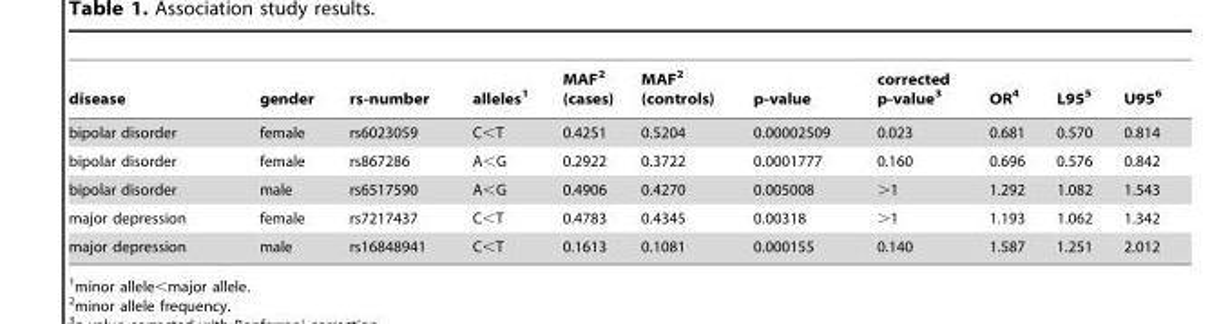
<table><thead><tr><td>disease</td><td>gender</td><td>rs-number</td><td>alleles<sup>1</sup></td><td>MAF<sup>2</sup> (cases)</td><td>MAF<sup>2</sup> (controls)</td><td>p-value</td><td>corrected p-value<sup>3</sup></td><td>OR<sup>4</sup></td><td>L95<sup>5</sup></td><td>U95<sup>6</sup></td></tr></thead><tbody><tr><td>bipolar disorder</td><td>female</td><td>rs6023059</td><td>C&lt;T</td><td>0.4251</td><td>0.5204</td><td>0.00002509</td><td>0.023</td><td>0.681</td><td>0.570</td><td>0.814</td></tr><tr><td>bipolar disorder</td><td>female</td><td>rs867286</td><td>A&lt;G</td><td>0.2922</td><td>0.3722</td><td>0.0001777</td><td>0.160</td><td>0.696</td><td>0.576</td><td>0.842</td></tr><tr><td>bipolar disorder</td><td>male</td><td>rs6517590</td><td>A&lt;G</td><td>0.4906</td><td>0.4270</td><td>0.005008</td><td>&gt;1</td><td>1.292</td><td>1.082</td><td>1.543</td></tr><tr><td>major depression</td><td>female</td><td>rs7217437</td><td>C&lt;T</td><td>0.4783</td><td>0.4345</td><td>0.00318</td><td>&gt;1</td><td>1.193</td><td>1.062</td><td>1.342</td></tr><tr><td>major depression</td><td>male</td><td>rs16848941</td><td>C&lt;T</td><td>0.1613</td><td>0.1081</td><td>0.000155</td><td>0.140</td><td>1.587</td><td>1.251</td><td>2.012</td></tr></tbody></table>